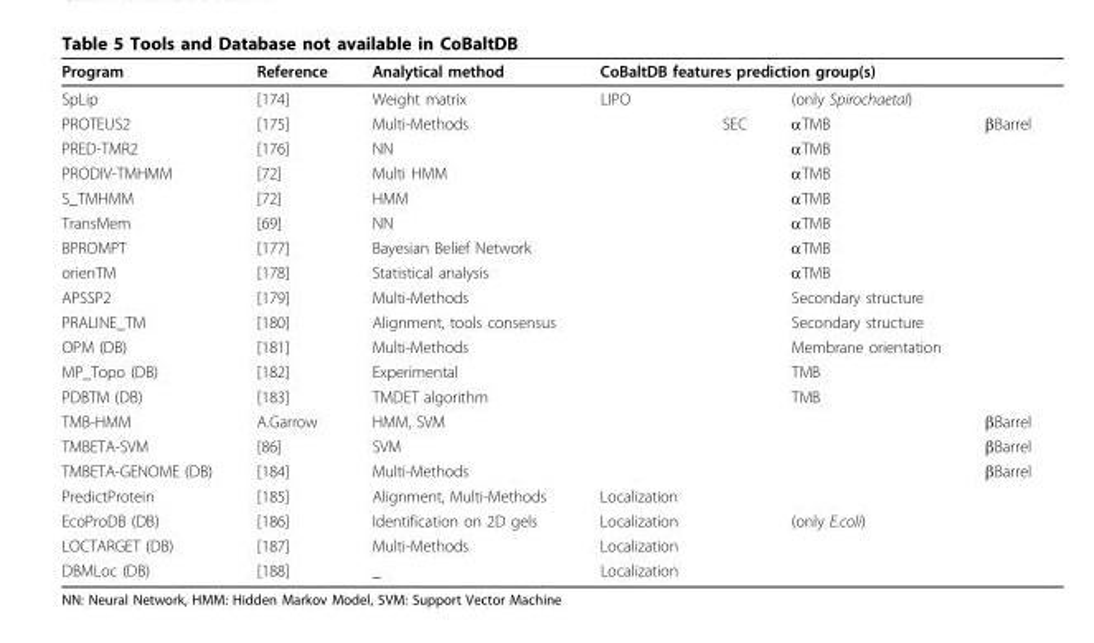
<table><thead><tr><td rowspan="2">Program SpLip</td><td rowspan="2">Reference [174]</td><td rowspan="2">Analytical method Weight matrix</td><td colspan="4">CoBaltDB features prediction group(s)</td></tr><tr><td>LIPO</td><td></td><td>(only Spirochaetal)</td><td></td></tr></thead><tbody><tr><td>PROTEUS2</td><td>[175]</td><td>Multi-Methods</td><td></td><td>SEC</td><td>αTMB</td><td>βBarrel</td></tr><tr><td>PRED-TMR2</td><td>[176]</td><td>NN</td><td></td><td></td><td>αTMB</td><td></td></tr><tr><td>PRODIV-TMHMM</td><td>[72]</td><td>Multi HMM</td><td></td><td></td><td>αTMB</td><td></td></tr><tr><td>S_TMHMM</td><td>[72]</td><td>HMM</td><td></td><td></td><td>αTMB</td><td></td></tr><tr><td>TransMem</td><td>[69]</td><td>NN</td><td></td><td></td><td>αTMB</td><td></td></tr><tr><td>BPROMPT</td><td>[177]</td><td>Bayesian Belief Network</td><td></td><td></td><td>αTMB</td><td></td></tr><tr><td>orienTM</td><td>[178]</td><td>Statistical analysis</td><td></td><td></td><td>αTMB</td><td></td></tr><tr><td>APSSP2</td><td>[179]</td><td>Multi-Methods</td><td></td><td></td><td>Secondary structure</td><td></td></tr><tr><td>PRALINE_TM</td><td>[180]</td><td>Alignment, tools consensus</td><td></td><td></td><td>Secondary structure</td><td></td></tr><tr><td>OPM (DB)</td><td>[181]</td><td>Multi-Methods</td><td></td><td></td><td>Membrane orientation</td><td></td></tr><tr><td>MP_Topo (DB)</td><td>[182]</td><td>Experimental</td><td></td><td></td><td>TMB</td><td></td></tr><tr><td>PDBTM (DB)</td><td>[183]</td><td>TMDET algorithm</td><td></td><td></td><td>TMB</td><td></td></tr><tr><td>TMB-HMM</td><td>A.Garrow</td><td>HMM, SVM</td><td></td><td></td><td></td><td>βBarrel</td></tr><tr><td>TMBETA-SVM</td><td>[86]</td><td>SVM</td><td></td><td></td><td></td><td>βBarrel</td></tr><tr><td>TMBETA-GENOME (DB)</td><td>[184]</td><td>Multi-Methods</td><td></td><td></td><td></td><td>βBarrel</td></tr><tr><td>PredictProtein</td><td>[185]</td><td>Alignment, Multi-Methods</td><td>Localization</td><td></td><td></td><td></td></tr><tr><td>EcoProDB (DB)</td><td>[186]</td><td>Identification on 2D gels</td><td>Localization</td><td></td><td>(only E.coli)</td><td></td></tr><tr><td>LOCTARGET (DB)</td><td>[187]</td><td>Multi-Methods</td><td>Localization</td><td></td><td></td><td></td></tr><tr><td>DBMLoc (DB)</td><td>[188]</td><td>_</td><td>Localization</td><td></td><td></td><td></td></tr></tbody></table>